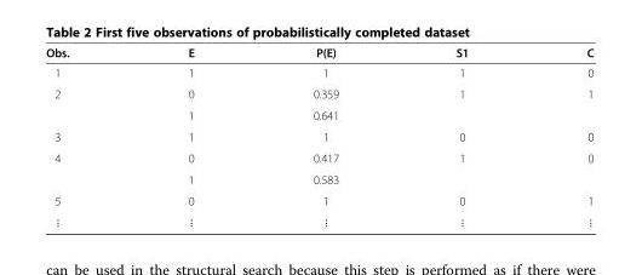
<table><thead><tr><td>Obs.</td><td>E</td><td>P(E)</td><td>S1</td><td>C</td></tr></thead><tbody><tr><td>1</td><td>1</td><td>1</td><td>1</td><td>0</td></tr><tr><td rowspan="2">2</td><td>0</td><td>0.359</td><td rowspan="2">1</td><td rowspan="2">1</td></tr><tr><td>1</td><td>0.641</td></tr><tr><td>3</td><td>1</td><td>1</td><td>0</td><td>0</td></tr><tr><td rowspan="2">4</td><td>0</td><td>0.417</td><td rowspan="2">1</td><td rowspan="2">0</td></tr><tr><td>1</td><td>0.583</td></tr><tr><td>5</td><td>0</td><td>1</td><td>0</td><td>1</td></tr><tr><td>⋮</td><td>⋮</td><td>⋮</td><td>⋮</td><td>⋮</td></tr></tbody></table>